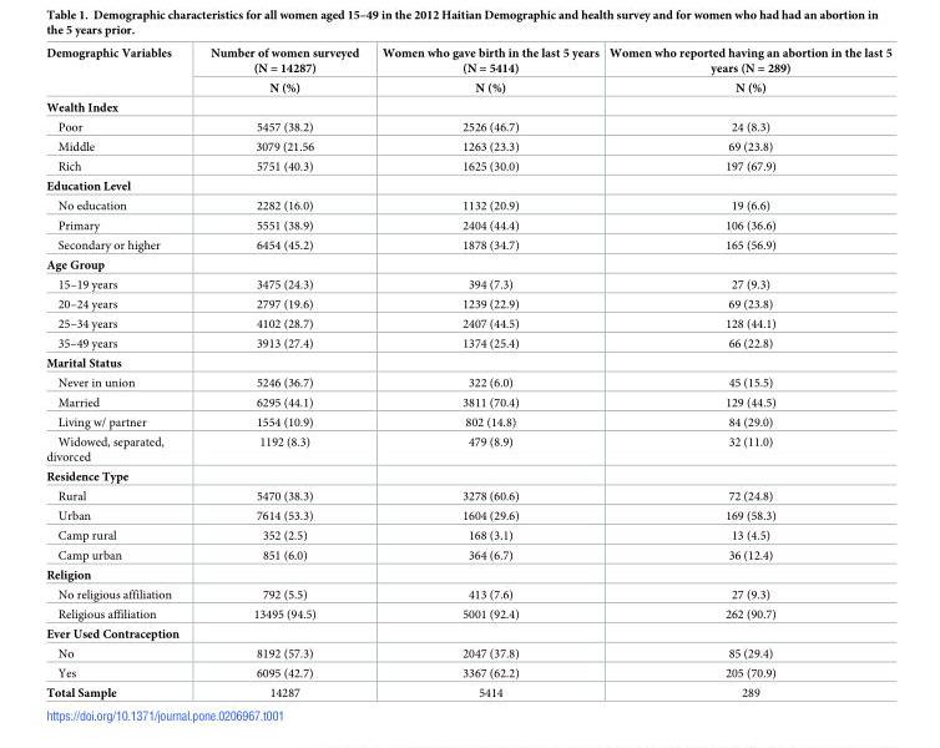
<table><thead><tr><td rowspan="2">Demographic Variables</td><td rowspan="2">Number of women surveyed (N = 14287) N (%)</td><td rowspan="2">Women who gave birth in the last 5 years (N = 5414) N (%)</td><td rowspan="2">Women who reported having an abortion in the last 5 years (N = 289) N (%)</td></tr><tr></tr></thead><tbody><tr><td colspan="4">Wealth Index</td></tr><tr><td>Poor</td><td>5457 (38.2)</td><td>2526 (46.7)</td><td>24 (8.3)</td></tr><tr><td>Middle</td><td>3079 (21.56</td><td>1263 (23.3)</td><td>69 (23.8)</td></tr><tr><td>Rich</td><td>5751 (40.3)</td><td>1625 (30.0)</td><td>197 (67.9)</td></tr><tr><td colspan="4">Education Level</td></tr><tr><td>No education</td><td>2282 (16.0)</td><td>1132 (20.9)</td><td>19 (6.6)</td></tr><tr><td>Primary</td><td>5551 (38.9)</td><td>2404 (44.4)</td><td>106 (36.6)</td></tr><tr><td>Secondary or higher</td><td>6454 (45.2)</td><td>1878 (34.7)</td><td>165 (56.9)</td></tr><tr><td colspan="4">Age Group</td></tr><tr><td>15–19 years</td><td>3475 (24.3)</td><td>394 (7.3)</td><td>27 (9.3)</td></tr><tr><td>20–24 years</td><td>2797 (19.6)</td><td>1239 (22.9)</td><td>69 (23.8)</td></tr><tr><td>25–34 years</td><td>4102 (28.7)</td><td>2407 (44.5)</td><td>128 (44.1)</td></tr><tr><td>35–49 years</td><td>3913 (27.4)</td><td>1374 (25.4)</td><td>66 (22.8)</td></tr><tr><td colspan="4">Marital Status</td></tr><tr><td>Never in union</td><td>5246 (36.7)</td><td>322 (6.0)</td><td>45 (15.5)</td></tr><tr><td>Married</td><td>6295 (44.1)</td><td>3811 (70.4)</td><td>129 (44.5)</td></tr><tr><td>Living w/ partner</td><td>1554 (10.9)</td><td>802 (14.8)</td><td>84 (29.0)</td></tr><tr><td>Widowed, separated, divorced</td><td>1192 (8.3)</td><td>479 (8.9)</td><td>32 (11.0)</td></tr><tr><td colspan="4">Residence Type</td></tr><tr><td>Rural</td><td>5470 (38.3)</td><td>3278 (60.6)</td><td>72 (24.8)</td></tr><tr><td>Urban</td><td>7614 (53.3)</td><td>1604 (29.6)</td><td>169 (58.3)</td></tr><tr><td>Camp rural</td><td>352 (2.5)</td><td>168 (3.1)</td><td>13 (4.5)</td></tr><tr><td>Camp urban</td><td>851 (6.0)</td><td>364 (6.7)</td><td>36 (12.4)</td></tr><tr><td colspan="4">Religion</td></tr><tr><td>No religious affiliation</td><td>792 (5.5)</td><td>413 (7.6)</td><td>27 (9.3)</td></tr><tr><td>Religious affiliation</td><td>13495 (94.5)</td><td>5001 (92.4)</td><td>262 (90.7)</td></tr><tr><td colspan="4">Ever Used Contraception</td></tr><tr><td>No</td><td>8192 (57.3)</td><td>2047 (37.8)</td><td>85 (29.4)</td></tr><tr><td>Yes</td><td>6095 (42.7)</td><td>3367 (62.2)</td><td>205 (70.9)</td></tr><tr><td>Total Sample</td><td>14287</td><td>5414</td><td>289</td></tr></tbody></table>